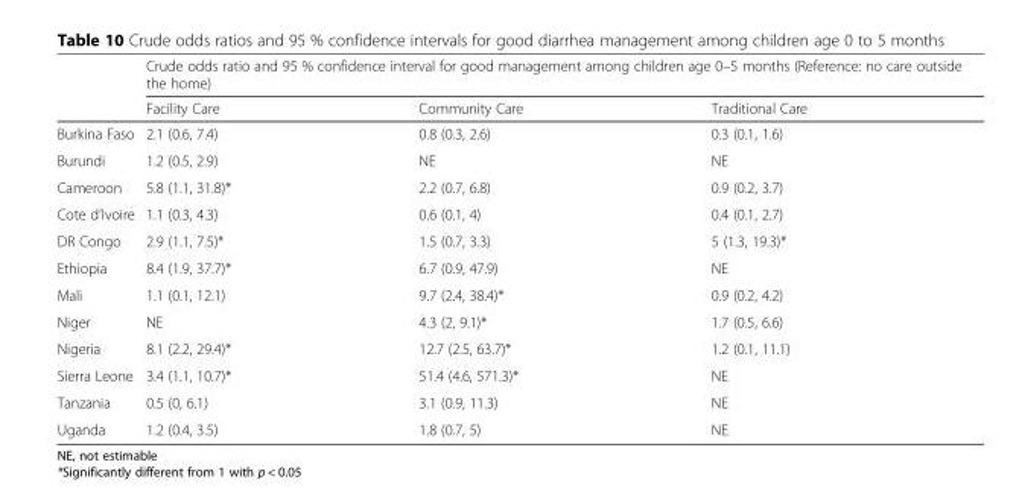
<table><thead><tr><td rowspan="2"></td><td colspan="3">Crude odds ratio and 95 % confidence interval for good management among children age 0–5 months (Reference: no care outside the home)</td></tr><tr><td>Facility Care</td><td>Community Care</td><td>Traditional Care</td></tr></thead><tbody><tr><td>Burkina Faso</td><td>2.1 (0.6, 7.4)</td><td>0.8 (0.3, 2.6)</td><td>0.3 (0.1, 1.6)</td></tr><tr><td>Burundi</td><td>1.2 (0.5, 2.9)</td><td>NE</td><td>NE</td></tr><tr><td>Cameroon</td><td>5.8 (1.1, 31.8)*</td><td>2.2 (0.7, 6.8)</td><td>0.9 (0.2, 3.7)</td></tr><tr><td>Cote d’Ivoire</td><td>1.1 (0.3, 4.3)</td><td>0.6 (0.1, 4)</td><td>0.4 (0.1, 2.7)</td></tr><tr><td>DR Congo</td><td>2.9 (1.1, 7.5)*</td><td>1.5 (0.7, 3.3)</td><td>5 (1.3, 19.3)*</td></tr><tr><td>Ethiopia</td><td>8.4 (1.9, 37.7)*</td><td>6.7 (0.9, 47.9)</td><td>NE</td></tr><tr><td>Mali</td><td>1.1 (0.1, 12.1)</td><td>9.7 (2.4, 38.4)*</td><td>0.9 (0.2, 4.2)</td></tr><tr><td>Niger</td><td>NE</td><td>4.3 (2, 9.1)*</td><td>1.7 (0.5, 6.6)</td></tr><tr><td>Nigeria</td><td>8.1 (2.2, 29.4)*</td><td>12.7 (2.5, 63.7)*</td><td>1.2 (0.1, 11.1)</td></tr><tr><td>Sierra Leone</td><td>3.4 (1.1, 10.7)*</td><td>51.4 (4.6, 571.3)*</td><td>NE</td></tr><tr><td>Tanzania</td><td>0.5 (0, 6.1)</td><td>3.1 (0.9, 11.3)</td><td>NE</td></tr><tr><td>Uganda</td><td>1.2 (0.4, 3.5)</td><td>1.8 (0.7, 5)</td><td>NE</td></tr></tbody></table>